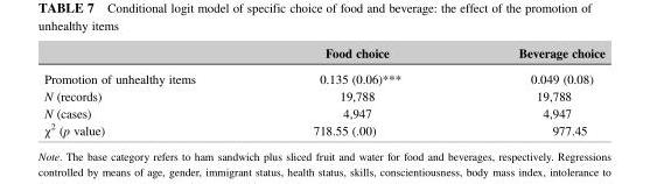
<table><thead><tr><td></td><td>Food choice</td><td>Beverage choice</td></tr></thead><tbody><tr><td>Promotion of unhealthy items</td><td>0.135 (0.06)***</td><td>0.049 (0.08)</td></tr><tr><td>N (records)</td><td>19,788</td><td>19,788</td></tr><tr><td>N (cases)</td><td>4,947</td><td>4,947</td></tr><tr><td>χ<sup>2</sup> (p value)</td><td>718.55 (.00)</td><td>977.45</td></tr></tbody></table>